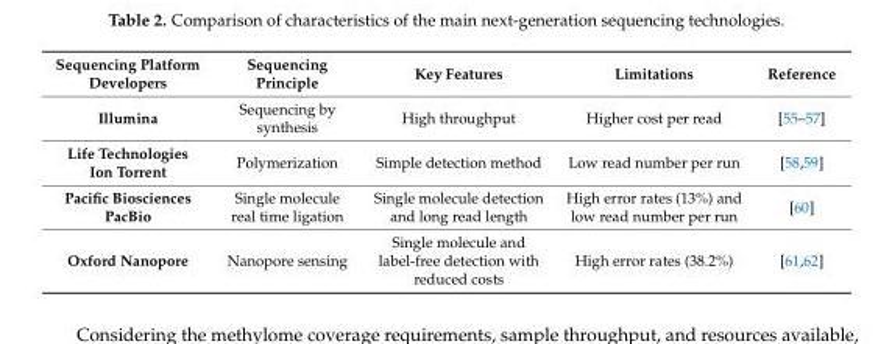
<table><thead><tr><td>Sequencing Platform Developers</td><td>Sequencing Principle</td><td>Key Features</td><td>Limitations</td><td>Reference</td></tr></thead><tbody><tr><td>Illumina</td><td>Sequencing by synthesis</td><td>High throughput</td><td>Higher cost per read</td><td>[55–57]</td></tr><tr><td>Life Technologies Ion Torrent</td><td>Polymerization</td><td>Simple detection method</td><td>Low read number per run</td><td>[58,59]</td></tr><tr><td>Pacific Biosciences PacBio</td><td>Single molecule real time ligation</td><td>Single molecule detection and long read length</td><td>High error rates (13%) and low read number per run</td><td>[60]</td></tr><tr><td>Oxford Nanopore</td><td>Nanopore sensing</td><td>Single molecule and label-free detection with reduced costs</td><td>High error rates (38.2%)</td><td>[61,62]</td></tr></tbody></table>